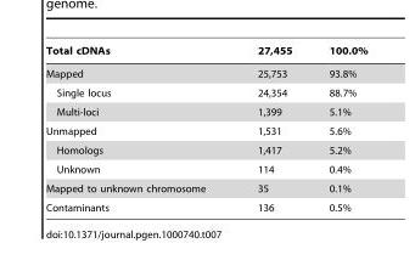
<table><thead><tr><td>Total cDNAs</td><td>27,455</td><td>100.0%</td></tr></thead><tbody><tr><td>Mapped</td><td>25,753</td><td>93.8%</td></tr><tr><td>Single locus</td><td>24,354</td><td>88.7%</td></tr><tr><td>Multi-loci</td><td>1,399</td><td>5.1%</td></tr><tr><td>Unmapped</td><td>1,531</td><td>5.6%</td></tr><tr><td>Homologs</td><td>1,417</td><td>5.2%</td></tr><tr><td>Unknown</td><td>114</td><td>0.4%</td></tr><tr><td>Mapped to unknown chromosome</td><td>35</td><td>0.1%</td></tr><tr><td>Contaminants</td><td>136</td><td>0.5%</td></tr></tbody></table>